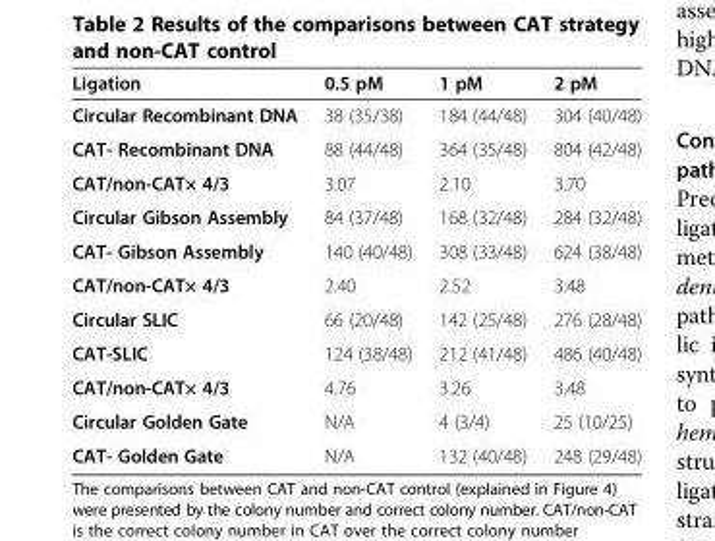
<table><thead><tr><td>Ligation</td><td>0.5 pM</td><td>1 pM</td><td>2 pM</td></tr></thead><tbody><tr><td>Circular Recombinant DNA</td><td>38 (35/38)</td><td>184 (44/48)</td><td>304 (40/48)</td></tr><tr><td>CAT- Recombinant DNA</td><td>88 (44/48)</td><td>364 (35/48)</td><td>804 (42/48)</td></tr><tr><td>CAT/non-CAT× 4/3</td><td>3.07</td><td>2.10</td><td>3.70</td></tr><tr><td>Circular Gibson Assembly</td><td>84 (37/48)</td><td>168 (32/48)</td><td>284 (32/48)</td></tr><tr><td>CAT- Gibson Assembly</td><td>140 (40/48)</td><td>308 (33/48)</td><td>624 (38/48)</td></tr><tr><td>CAT/non-CAT× 4/3</td><td>2.40</td><td>2.52</td><td>3.48</td></tr><tr><td>Circular SLIC</td><td>66 (20/48)</td><td>142 (25/48)</td><td>276 (28/48)</td></tr><tr><td>CAT-SLIC</td><td>124 (38/48)</td><td>212 (41/48)</td><td>486 (40/48)</td></tr><tr><td>CAT/non-CAT× 4/3</td><td>4.76</td><td>3.26</td><td>3.48</td></tr><tr><td>Circular Golden Gate</td><td>N/A</td><td>4 (3/4)</td><td>25 (10/25)</td></tr><tr><td>CAT- Golden Gate</td><td>N/A</td><td>132 (40/48)</td><td>248 (29/48)</td></tr></tbody></table>